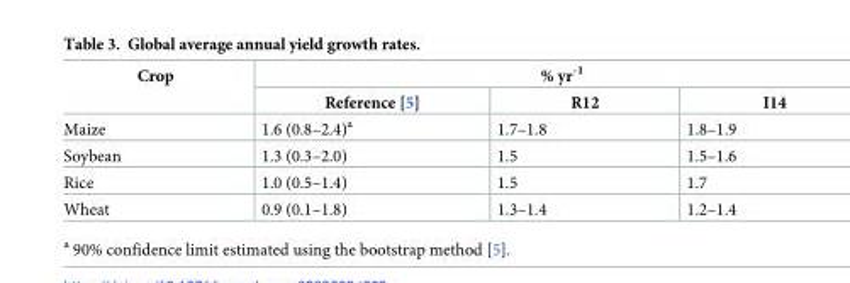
<table><thead><tr><td rowspan="2">Crop</td><td colspan="3">% yr<sup>-1</sup></td></tr><tr><td>Reference [5]</td><td>R12</td><td>I14</td></tr></thead><tbody><tr><td>Maize</td><td>1.6 (0.8–2.4)<sup>a</sup></td><td>1.7–1.8</td><td>1.8–1.9</td></tr><tr><td>Soybean</td><td>1.3 (0.3–2.0)</td><td>1.5</td><td>1.5–1.6</td></tr><tr><td>Rice</td><td>1.0 (0.5–1.4)</td><td>1.5</td><td>1.7</td></tr><tr><td>Wheat</td><td>0.9 (0.1–1.8)</td><td>1.3–1.4</td><td>1.2–1.4</td></tr></tbody></table>